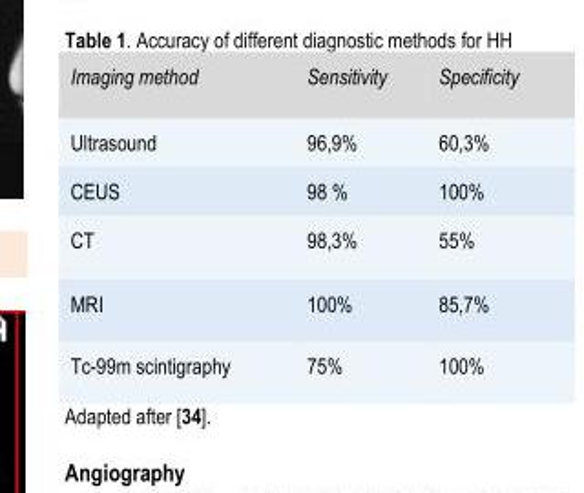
<table><tbody><tr><td>Imaging method</td><td>Sensitivity</td><td>Specificity</td></tr><tr><td>Ultrasound</td><td>96,9%</td><td>60,3%</td></tr><tr><td>CEUS</td><td>98 %</td><td>100%</td></tr><tr><td>CT</td><td>98,3%</td><td>55%</td></tr><tr><td>MRI</td><td>100%</td><td>85,7%</td></tr><tr><td>Tc-99m scintigraphy</td><td>75%</td><td>100%</td></tr><tr><td>Adapted after [34].</td><td></td><td></td></tr></tbody></table>